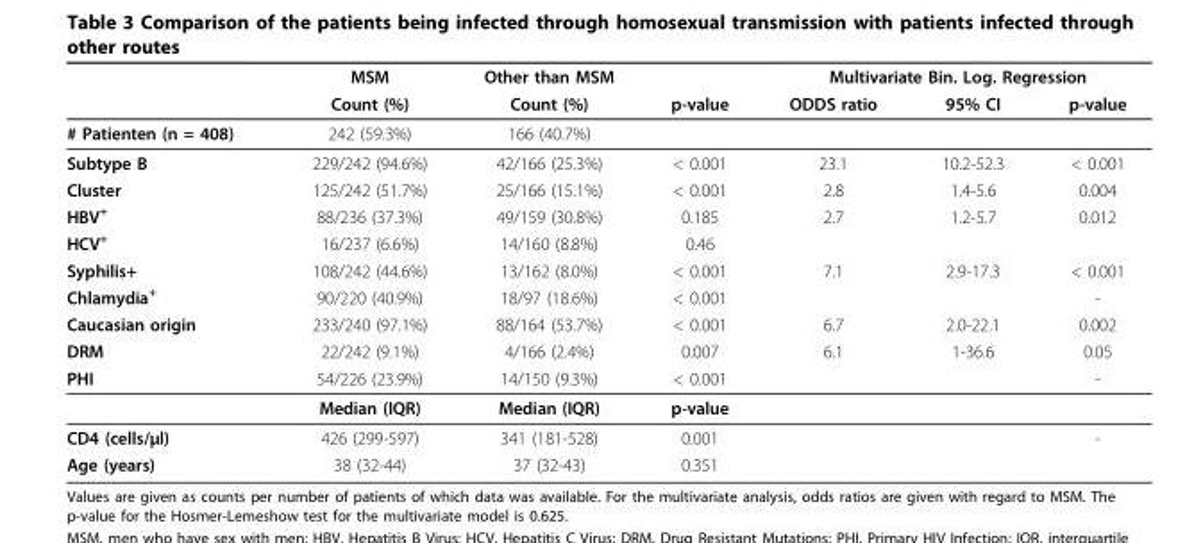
<table><thead><tr><td rowspan="2"></td><td rowspan="2">MSM Count (%)</td><td rowspan="2">Other than MSM Count (%)</td><td rowspan="2">p-value</td><td colspan="3">Multivariate Bin. Log. Regression</td></tr><tr><td>ODDS ratio</td><td>95% CI</td><td>p-value</td></tr></thead><tbody><tr><td># Patienten (n = 408)</td><td>242 (59.3%)</td><td>166 (40.7%)</td><td></td><td></td><td></td><td></td></tr><tr><td>Subtype B</td><td>229/242 (94.6%)</td><td>42/166 (25.3%)</td><td>&lt; 0.001</td><td>23.1</td><td>10.2-52.3</td><td>&lt; 0.001</td></tr><tr><td>Cluster</td><td>125/242 (51.7%)</td><td>25/166 (15.1%)</td><td>&lt; 0.001</td><td>2.8</td><td>1.4-5.6</td><td>0.004</td></tr><tr><td>HBV<sup>+</sup></td><td>88/236 (37.3%)</td><td>49/159 (30.8%)</td><td>0.185</td><td>2.7</td><td>1.2-5.7</td><td>0.012</td></tr><tr><td>HCV<sup>+</sup></td><td>16/237 (6.6%)</td><td>14/160 (8.8%)</td><td>0.46</td><td></td><td></td><td></td></tr><tr><td>Syphilis+</td><td>108/242 (44.6%)</td><td>13/162 (8.0%)</td><td>&lt; 0.001</td><td>7.1</td><td>2.9-17.3</td><td>&lt; 0.001</td></tr><tr><td>Chlamydia<sup>+</sup></td><td>90/220 (40.9%)</td><td>18/97 (18.6%)</td><td>&lt; 0.001</td><td></td><td></td><td>-</td></tr><tr><td>Caucasian origin</td><td>233/240 (97.1%)</td><td>88/164 (53.7%)</td><td>&lt; 0.001</td><td>6.7</td><td>2.0-22.1</td><td>0.002</td></tr><tr><td>DRM</td><td>22/242 (9.1%)</td><td>4/166 (2.4%)</td><td>0.007</td><td>6.1</td><td>1-36.6</td><td>0.05</td></tr><tr><td rowspan="2">PHI</td><td>54/226 (23.9%)</td><td>14/150 (9.3%)</td><td>&lt; 0.001</td><td></td><td></td><td>-</td></tr><tr><td>Median (IQR)</td><td>Median (IQR)</td><td>p-value</td><td></td><td></td><td></td></tr><tr><td>CD4 (cells/μl)</td><td>426 (299-597)</td><td>341 (181-528)</td><td>0.001</td><td></td><td></td><td>-</td></tr><tr><td>Age (years)</td><td>38 (32-44)</td><td>37 (32-43)</td><td>0.351</td><td></td><td></td><td></td></tr></tbody></table>